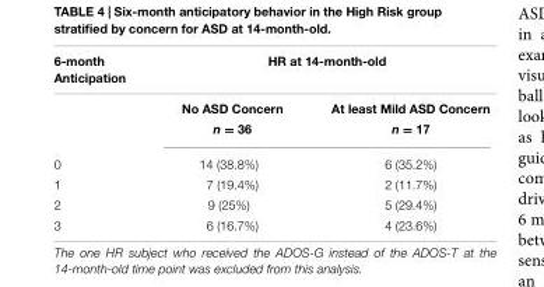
<table><thead><tr><td rowspan="2">6-month Anticipation</td><td colspan="2">HR at 14-month-old</td></tr><tr><td>No ASD Concern</td><td>At least Mild ASD Concern</td></tr></thead><tbody><tr><td></td><td>n = 36</td><td>n = 17</td></tr><tr><td>0</td><td>14 (38.8%)</td><td>6 (35.2%)</td></tr><tr><td>1</td><td>7 (19.4%)</td><td>2 (11.7%)</td></tr><tr><td>2</td><td>9 (25%)</td><td>5 (29.4%)</td></tr><tr><td>3</td><td>6 (16.7%)</td><td>4 (23.6%)</td></tr></tbody></table>